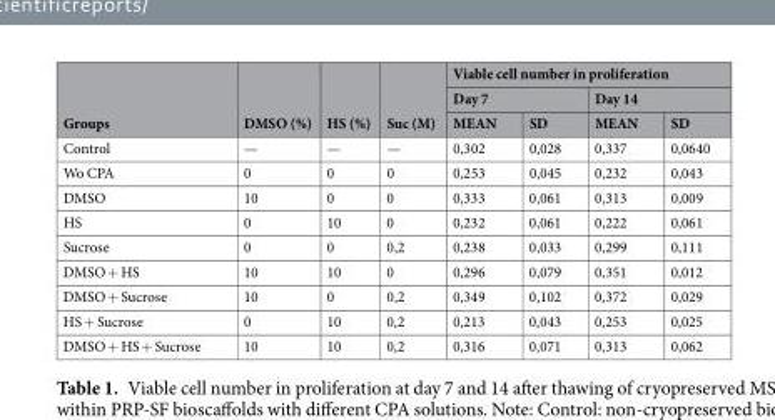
<table><thead><tr><td rowspan="3">Groups</td><td rowspan="3">DMSO (%)</td><td rowspan="3">HS (%)</td><td rowspan="3">Suc (M)</td><td colspan="4">Viable cell number in proliferation</td></tr><tr><td colspan="2">Day 7</td><td colspan="2">Day 14</td></tr><tr><td>MEAN</td><td>SD</td><td>MEAN</td><td>SD</td></tr></thead><tbody><tr><td>Control</td><td>—</td><td>—</td><td>—</td><td>0,302</td><td>0,028</td><td>0,337</td><td>0,0640</td></tr><tr><td>Wo CPA</td><td>0</td><td>0</td><td>0</td><td>0,253</td><td>0,045</td><td>0,232</td><td>0,043</td></tr><tr><td>DMSO</td><td>10</td><td>0</td><td>0</td><td>0,333</td><td>0,061</td><td>0,313</td><td>0,009</td></tr><tr><td>HS</td><td>0</td><td>10</td><td>0</td><td>0,232</td><td>0,061</td><td>0,222</td><td>0,061</td></tr><tr><td>Sucrose</td><td>0</td><td>0</td><td>0,2</td><td>0,238</td><td>0,033</td><td>0,299</td><td>0,111</td></tr><tr><td>DMSO + HS</td><td>10</td><td>10</td><td>0</td><td>0,296</td><td>0,079</td><td>0,351</td><td>0,012</td></tr><tr><td>DMSO + Sucrose</td><td>10</td><td>0</td><td>0,2</td><td>0,349</td><td>0,102</td><td>0,372</td><td>0,029</td></tr><tr><td>HS + Sucrose</td><td>0</td><td>10</td><td>0,2</td><td>0,213</td><td>0,043</td><td>0,253</td><td>0,025</td></tr><tr><td>DMSO + HS + Sucrose</td><td>10</td><td>10</td><td>0,2</td><td>0,316</td><td>0,071</td><td>0,313</td><td>0,062</td></tr></tbody></table>